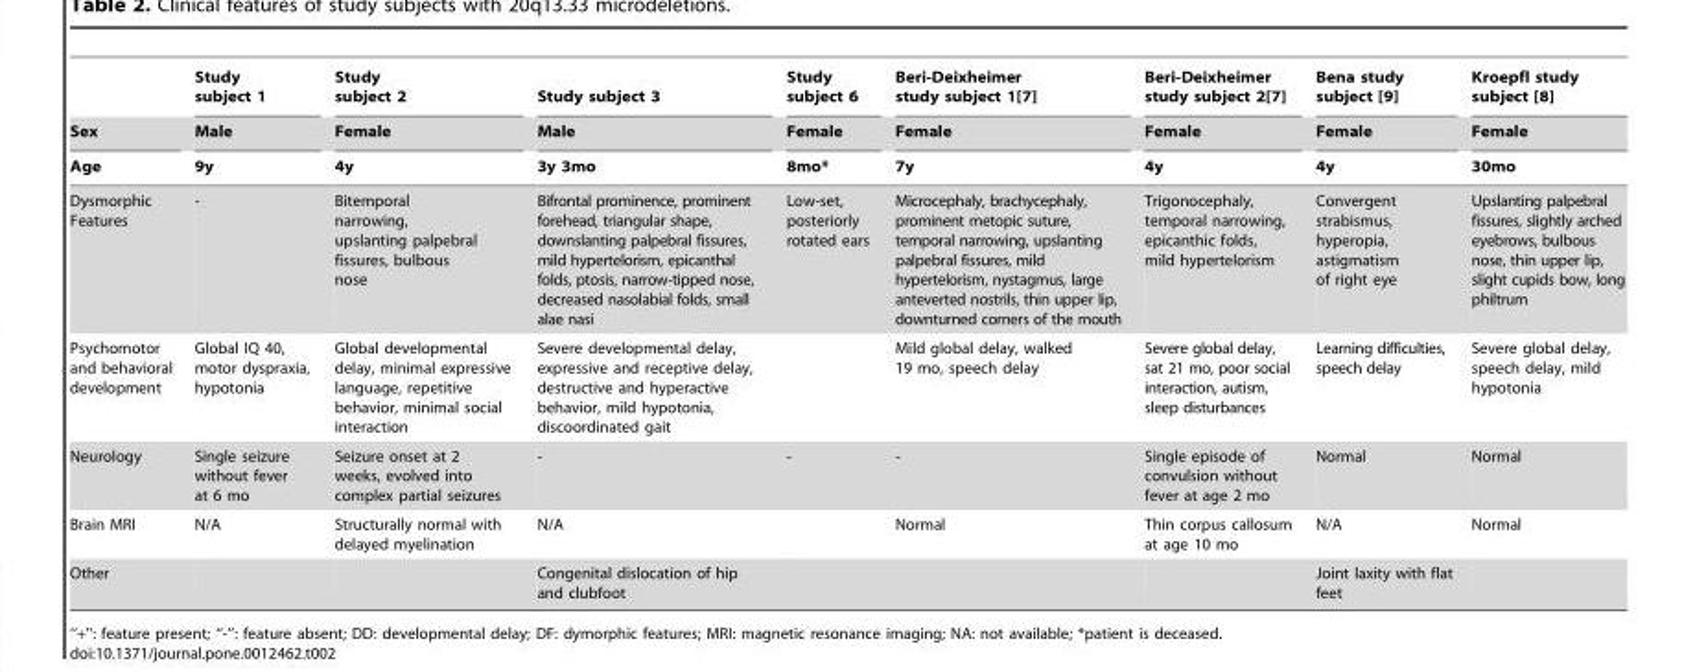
<table><thead><tr><td rowspan="3">Sex Age</td><td rowspan="3">Study subject 1 Male 9y</td><td rowspan="3">Study subject 2 Female 4y</td><td rowspan="3">Study subject 3 Male 3y 3mo</td><td rowspan="3">Study subject 6 Female 8mo*</td><td rowspan="3">Beri-Deixheimer study subject 1[7] Female 7y</td><td rowspan="3">Beri-Deixheimer study subject 2[7] Female 4y</td><td rowspan="3">Bena study subject [9] Female 4y</td><td rowspan="3">Kroepfl study subject [8] Female 30mo</td></tr><tr></tr><tr></tr></thead><tbody><tr><td>Dysmorphic Features</td><td>-</td><td>Bitemporal narrowing, upslanting palpebral fissures, bulbous nose</td><td>Bifrontal prominence, prominent forehead, triangular shape, downslanting palpebral fissures, mild hypertelorism, epicanthal folds, ptosis, narrow-tipped nose, decreased nasolabial folds, small alae nasi</td><td>Low-set, posteriorly rotated ears</td><td>Microcephaly, brachycephaly, prominent metopic suture, temporal narrowing, upslanting palpebral fissures, mild hypertelorism, nystagmus, large anteverted nostrils, thin upper lip, downturned corners of the mouth</td><td>Trigonocephaly, temporal narrowing, epicanthic folds, mild hypertelorism</td><td>Convergent strabismus, hyperopia, astigmatism of right eye</td><td>Upslanting palpebral fissures, slightly arched eyebrows, bulbous nose, thin upper lip, slight cupids bow, long philtrum</td></tr><tr><td>Psychomotor and behavioral development</td><td>Global IQ 40, motor dyspraxia, hypotonia</td><td>Global developmental delay, minimal expressive language, repetitive behavior, minimal social interaction</td><td>Severe developmental delay, expressive and receptive delay, destructive and hyperactive behavior, mild hypotonia, discoordinated gait</td><td></td><td>Mild global delay, walked 19 mo, speech delay</td><td>Severe global delay, sat 21 mo, poor social interaction, autism, sleep disturbances</td><td>Learning difficulties, speech delay</td><td>Severe global delay, speech delay, mild hypotonia</td></tr><tr><td>Neurology</td><td>Single seizure without fever at 6 mo</td><td>Seizure onset at 2 weeks, evolved into complex partial seizures</td><td>-</td><td>-</td><td>-</td><td>Single episode of convulsion without fever at age 2 mo</td><td>Normal</td><td>Normal</td></tr><tr><td>Brain MRI</td><td>N/A</td><td>Structurally normal with delayed myelination</td><td>N/A</td><td></td><td>Normal</td><td>Thin corpus callosum at age 10 mo</td><td>N/A</td><td>Normal</td></tr><tr><td>Other</td><td></td><td></td><td>Congenital dislocation of hip and clubfoot</td><td></td><td></td><td></td><td>Joint laxity with flat feet</td><td></td></tr></tbody></table>